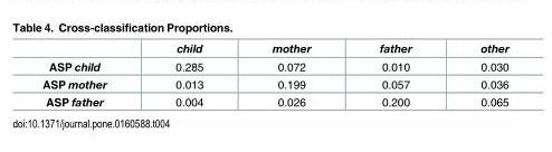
<table><thead><tr><td></td><td>child</td><td>mother</td><td>father</td><td>other</td></tr></thead><tbody><tr><td>ASP child</td><td>0.285</td><td>0.072</td><td>0.010</td><td>0.030</td></tr><tr><td>ASP mother</td><td>0.013</td><td>0.199</td><td>0.057</td><td>0.036</td></tr><tr><td>ASP father</td><td>0.004</td><td>0.026</td><td>0.200</td><td>0.065</td></tr></tbody></table>